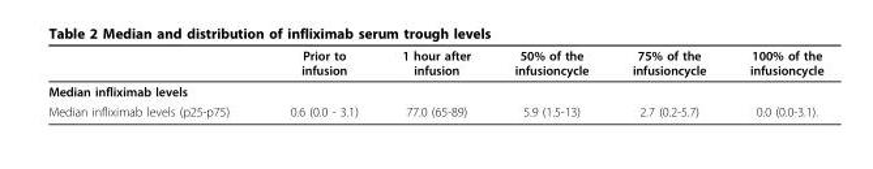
<table><thead><tr><td></td><td>Prior to infusion</td><td>1 hour after infusion</td><td>50% of the infusioncycle</td><td>75% of the infusioncycle</td><td>100% of the infusioncycle</td></tr></thead><tbody><tr><td colspan="6">Median infliximab levels</td></tr><tr><td>Median infliximab levels (p25-p75)</td><td>0.6 (0.0 - 3.1)</td><td>77.0 (65-89)</td><td>5.9 (1.5-13)</td><td>2.7 (0.2-5.7)</td><td>0.0 (0.0-3.1).</td></tr></tbody></table>